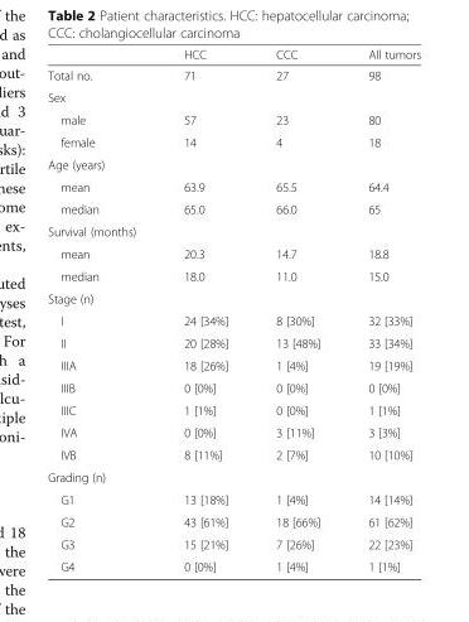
<table><thead><tr><td></td><td>HCC</td><td>CCC</td><td>All tumors</td></tr></thead><tbody><tr><td>Total no.</td><td>71</td><td>27</td><td>98</td></tr><tr><td colspan="4">Sex</td></tr><tr><td>male</td><td>57</td><td>23</td><td>80</td></tr><tr><td>female</td><td>14</td><td>4</td><td>18</td></tr><tr><td colspan="4">Age (years)</td></tr><tr><td>mean</td><td>63.9</td><td>65.5</td><td>64.4</td></tr><tr><td>median</td><td>65.0</td><td>66.0</td><td>65</td></tr><tr><td colspan="4">Survival (months)</td></tr><tr><td>mean</td><td>20.3</td><td>14.7</td><td>18.8</td></tr><tr><td>median</td><td>18.0</td><td>11.0</td><td>15.0</td></tr><tr><td colspan="4">Stage (n)</td></tr><tr><td>I</td><td>24 [34%]</td><td>8 [30%]</td><td>32 [33%]</td></tr><tr><td>II</td><td>20 [28%]</td><td>13 [48%]</td><td>33 [34%]</td></tr><tr><td>IIIA</td><td>18 [26%]</td><td>1 [4%]</td><td>19 [19%]</td></tr><tr><td>IIIB</td><td>0 [0%]</td><td>0 [0%]</td><td>0 [0%]</td></tr><tr><td>IIIC</td><td>1 [1%]</td><td>0 [0%]</td><td>1 [1%]</td></tr><tr><td>IVA</td><td>0 [0%]</td><td>3 [11%]</td><td>3 [3%]</td></tr><tr><td>IVB</td><td>8 [11%]</td><td>2 [7%]</td><td>10 [10%]</td></tr><tr><td colspan="4">Grading (n)</td></tr><tr><td>G1</td><td>13 [18%]</td><td>1 [4%]</td><td>14 [14%]</td></tr><tr><td>G2</td><td>43 [61%]</td><td>18 [66%]</td><td>61 [62%]</td></tr><tr><td>G3</td><td>15 [21%]</td><td>7 [26%]</td><td>22 [23%]</td></tr><tr><td>G4</td><td>0 [0%]</td><td>1 [4%]</td><td>1 [1%]</td></tr></tbody></table>